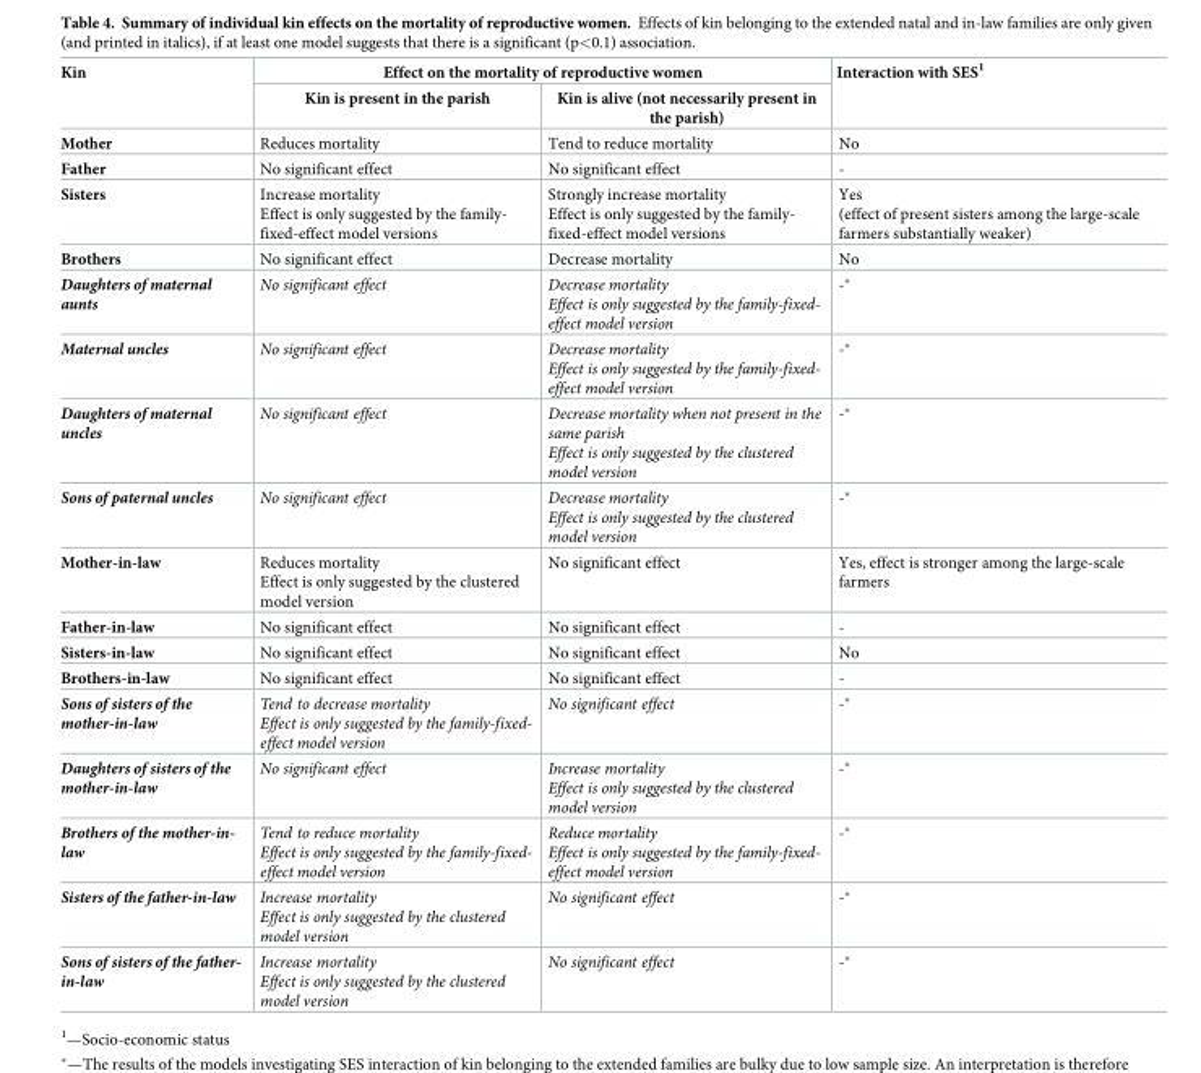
<table><thead><tr><td rowspan="2">Kin</td><td colspan="2">Effect on the mortality of reproductive women</td><td rowspan="2">Interaction with SES<sup>1</sup></td></tr><tr><td>Kin is present in the parish</td><td>Kin is alive (not necessarily present in the parish)</td></tr></thead><tbody><tr><td>Mother</td><td>Reduces mortality</td><td>Tend to reduce mortality</td><td>No</td></tr><tr><td>Father</td><td>No significant effect</td><td>No significant effect</td><td>-</td></tr><tr><td>Sisters</td><td>Increase mortality Effect is only suggested by the family- fixed-effect model versions</td><td>Strongly increase mortality Effect is only suggested by the family- fixed-effect model versions</td><td>Yes (effect of present sisters among the large-scale farmers substantially weaker)</td></tr><tr><td>Brothers</td><td>No significant effect</td><td>Decrease mortality</td><td>No</td></tr><tr><td>Daughters of maternal aunts</td><td>No significant effect</td><td>Decrease mortality Effect is only suggested by the family-fixed- effect model version</td><td>-*</td></tr><tr><td>Maternal uncles</td><td>No significant effect</td><td>Decrease mortality Effect is only suggested by the family-fixed- effect model version</td><td>-*</td></tr><tr><td>Daughters of maternal uncles</td><td>No significant effect</td><td>Decrease mortality when not present in the same parish Effect is only suggested by the clustered model version</td><td>-*</td></tr><tr><td>Sons of paternal uncles</td><td>No significant effect</td><td>Decrease mortality Effect is only suggested by the clustered model version</td><td>-*</td></tr><tr><td>Mother-in-law</td><td>Reduces mortality Effect is only suggested by the clustered model version</td><td>No significant effect</td><td>Yes, effect is stronger among the large-scale farmers</td></tr><tr><td>Father-in-law</td><td>No significant effect</td><td>No significant effect</td><td>-</td></tr><tr><td>Sisters-in-law</td><td>No significant effect</td><td>No significant effect</td><td>No</td></tr><tr><td>Brothers-in-law</td><td>No significant effect</td><td>No significant effect</td><td>-</td></tr><tr><td>Sons of sisters of the mother-in-law</td><td>Tend to decrease mortality Effect is only suggested by the family-fixed- effect model version</td><td>No significant effect</td><td>-*</td></tr><tr><td>Daughters of sisters of the mother-in-law</td><td>No significant effect</td><td>Increase mortality Effect is only suggested by the clustered model version</td><td>-*</td></tr><tr><td>Brothers of the mother-in- law</td><td>Tend to reduce mortality Effect is only suggested by the family-fixed- effect model version</td><td>Reduce mortality Effect is only suggested by the family-fixed- effect model version</td><td>-*</td></tr><tr><td>Sisters of the father-in-law</td><td>Increase mortality Effect is only suggested by the clustered model version</td><td>No significant effect</td><td>-*</td></tr><tr><td>Sons of sisters of the father- in-law</td><td>Increase mortality Effect is only suggested by the clustered model version</td><td>No significant effect</td><td>-*</td></tr></tbody></table>